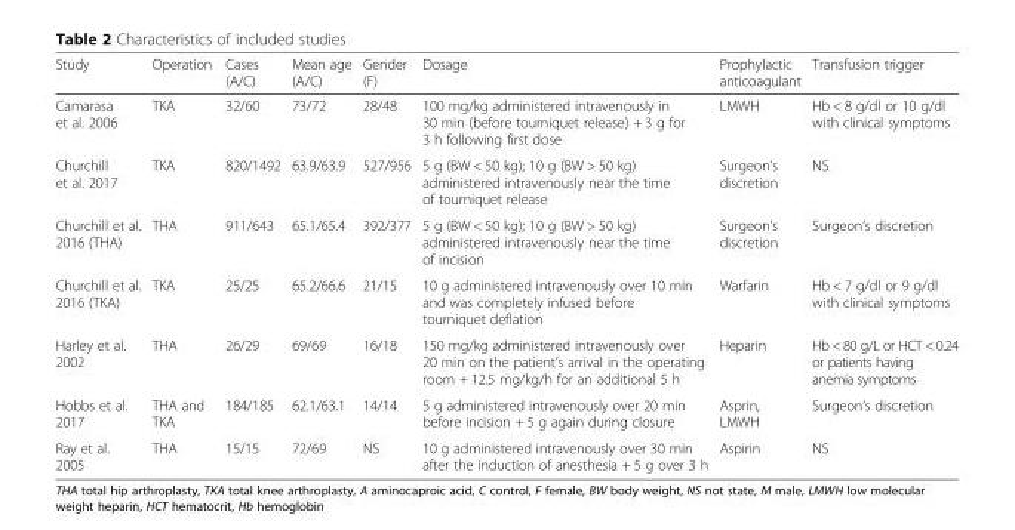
<table><thead><tr><td>Study</td><td>Operation</td><td>Cases (A/C)</td><td>Mean age (A/C)</td><td>Gender (F)</td><td>Dosage</td><td>Prophylactic anticoagulant</td><td>Transfusion trigger</td></tr></thead><tbody><tr><td>Camarasa et al. 2006</td><td>TKA</td><td>32/60</td><td>73/72</td><td>28/48</td><td>100 mg/kg administered intravenously in 30 min (before tourniquet release) + 3 g for 3 h following first dose</td><td>LMWH</td><td>Hb &lt; 8 g/dl or 10 g/dl with clinical symptoms</td></tr><tr><td>Churchill et al. 2017</td><td>TKA</td><td>820/1492</td><td>63.9/63.9</td><td>527/956</td><td>5 g (BW &lt; 50 kg); 10 g (BW &gt; 50 kg) administered intravenously near the time of tourniquet release</td><td>Surgeon’s discretion</td><td>NS</td></tr><tr><td>Churchill et al. 2016 (THA)</td><td>THA</td><td>911/643</td><td>65.1/65.4</td><td>392/377</td><td>5 g (BW &lt; 50 kg); 10 g (BW &gt; 50 kg) administered intravenously near the time of incision</td><td>Surgeon’s discretion</td><td>Surgeon’s discretion</td></tr><tr><td>Churchill et al. 2016 (TKA)</td><td>TKA</td><td>25/25</td><td>65.2/66.6</td><td>21/15</td><td>10 g administered intravenously over 10 min and was completely infused before tourniquet deflation</td><td>Warfarin</td><td>Hb &lt; 7 g/dl or 9 g/dl with clinical symptoms</td></tr><tr><td>Harley et al. 2002</td><td>THA</td><td>26/29</td><td>69/69</td><td>16/18</td><td>150 mg/kg administered intravenously over 20 min on the patient’s arrival in the operating room + 12.5 mg/kg/h for an additional 5 h</td><td>Heparin</td><td>Hb &lt; 80 g/L or HCT &lt; 0.24 or patients having anemia symptoms</td></tr><tr><td>Hobbs et al. 2017</td><td>THA and TKA</td><td>184/185</td><td>62.1/63.1</td><td>14/14</td><td>5 g administered intravenously over 20 min before incision + 5 g again during closure</td><td>Asprin, LMWH</td><td>Surgeon’s discretion</td></tr><tr><td>Ray et al. 2005</td><td>THA</td><td>15/15</td><td>72/69</td><td>NS</td><td>10 g administered intravenously over 30 min after the induction of anesthesia + 5 g over 3 h</td><td>Aspirin</td><td>NS</td></tr></tbody></table>